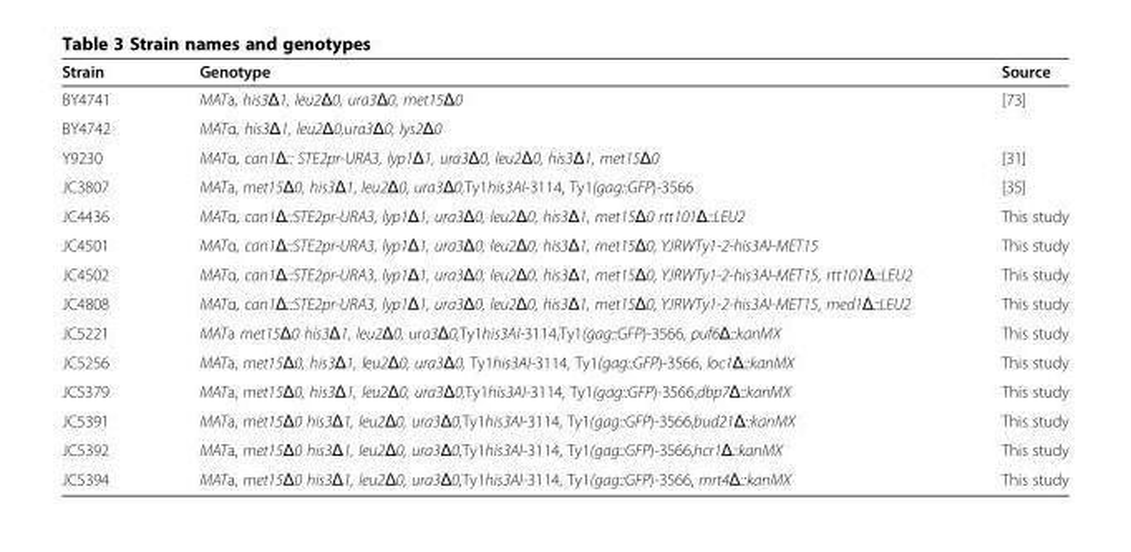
<table><thead><tr><td>Strain</td><td>Genotype</td><td>Source</td></tr></thead><tbody><tr><td>BY4741</td><td>MATa, his3Δ1, leu2Δ0, ura3Δ0, met15Δ0</td><td>[73]</td></tr><tr><td>BY4742</td><td>MATα, his3Δ1, leu2Δ0,ura3Δ0, lys2Δ0</td><td></td></tr><tr><td>Y9230</td><td>MATα, can1Δ:: STE2pr-URA3, lyp1Δ1, ura3Δ0, leu2Δ0, his3Δ1, met15Δ0</td><td>[31]</td></tr><tr><td>JC3807</td><td>MATa, met15Δ0, his3Δ1, leu2Δ0, ura3Δ0,Ty1his3AI-3114, Ty1(gag::GFP)-3566</td><td>[35]</td></tr><tr><td>JC4436</td><td>MATα, can1Δ::STE2pr-URA3, lyp1Δ1, ura3Δ0, leu2Δ0, his3Δ1, met15Δ0 rtt101Δ::LEU2</td><td>This study</td></tr><tr><td>JC4501</td><td>MATα, can1Δ::STE2pr-URA3, lyp1Δ1, ura3Δ0, leu2Δ0, his3Δ1, met15Δ0, YJRWTy1-2-his3AI-MET15</td><td>This study</td></tr><tr><td>JC4502</td><td>MATα, can1Δ::STE2pr-URA3, lyp1Δ1, ura3Δ0, leu2Δ0, his3Δ1, met15Δ0, YJRWTy1-2-his3AI-MET15, rtt101Δ::LEU2</td><td>This study</td></tr><tr><td>JC4808</td><td>MATα, can1Δ::STE2pr-URA3, lyp1Δ1, ura3Δ0, leu2Δ0, his3Δ1, met15Δ0, YJRWTy1-2-his3AI-MET15, med1Δ::LEU2</td><td>This study</td></tr><tr><td>JC5221</td><td>MATa met15Δ0 his3Δ1, leu2Δ0, ura3Δ0,Ty1his3AI-3114,Ty1(gag::GFP)-3566, puf6Δ::kanMX</td><td>This study</td></tr><tr><td>JC5256</td><td>MATa, met15Δ0, his3Δ1, leu2Δ0, ura3Δ0, Ty1his3AI-3114, Ty1(gag::GFP)-3566, loc1Δ::kanMX</td><td>This study</td></tr><tr><td>JC5379</td><td>MATa, met15Δ0, his3Δ1, leu2Δ0, ura3Δ0,Ty1his3AI-3114, Ty1(gag::GFP)-3566,dbp7Δ::kanMX</td><td>This study</td></tr><tr><td>JC5391</td><td>MATa, met15Δ0 his3Δ1, leu2Δ0, ura3Δ0,Ty1his3AI-3114, Ty1(gag::GFP)-3566,bud21Δ::kanMX</td><td>This study</td></tr><tr><td>JC5392</td><td>MATa, met15Δ0 his3Δ1, leu2Δ0, ura3Δ0,Ty1his3AI-3114, Ty1(gag::GFP)-3566,hcr1Δ::kanMX</td><td>This study</td></tr><tr><td>JC5394</td><td>MATa, met15Δ0 his3Δ1, leu2Δ0, ura3Δ0,Ty1his3AI-3114, Ty1(gag::GFP)-3566, mrt4Δ::kanMX</td><td>This study</td></tr></tbody></table>